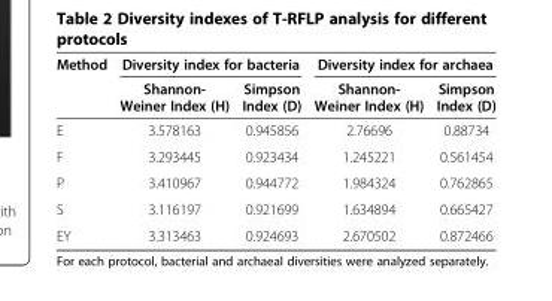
<table><thead><tr><td rowspan="2">Method</td><td colspan="2">Diversity index for bacteria</td><td colspan="2">Diversity index for archaea</td></tr><tr><td>Shannon- Weiner Index (H)</td><td>Simpson Index (D)</td><td>Shannon- Weiner Index (H)</td><td>Simpson Index (D)</td></tr></thead><tbody><tr><td>E</td><td>3.578163</td><td>0.945856</td><td>2.76696</td><td>0.88734</td></tr><tr><td>F</td><td>3.293445</td><td>0.923434</td><td>1.245221</td><td>0.561454</td></tr><tr><td>P</td><td>3.410967</td><td>0.944772</td><td>1.984324</td><td>0.762865</td></tr><tr><td>S</td><td>3.116197</td><td>0.921699</td><td>1.634894</td><td>0.665427</td></tr><tr><td>EY</td><td>3.313463</td><td>0.924693</td><td>2.670502</td><td>0.872466</td></tr></tbody></table>